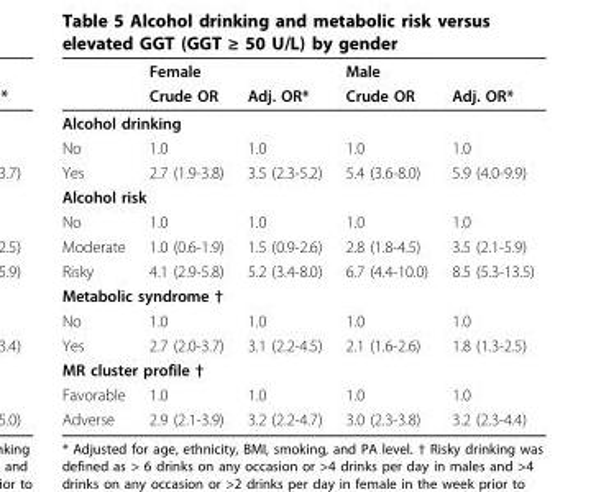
<table><thead><tr><td rowspan="2"></td><td colspan="2">Female</td><td colspan="2">Male</td></tr><tr><td>Crude OR</td><td>Adj. OR*</td><td>Crude OR</td><td>Adj. OR*</td></tr></thead><tbody><tr><td colspan="5">Alcohol drinking</td></tr><tr><td>No</td><td>1.0</td><td>1.0</td><td>1.0</td><td>1.0</td></tr><tr><td>Yes</td><td>2.7 (1.9-3.8)</td><td>3.5 (2.3-5.2)</td><td>5.4 (3.6-8.0)</td><td>5.9 (4.0-9.9)</td></tr><tr><td colspan="5">Alcohol risk</td></tr><tr><td>No</td><td>1.0</td><td>1.0</td><td>1.0</td><td>1.0</td></tr><tr><td>Moderate</td><td>1.0 (0.6-1.9)</td><td>1.5 (0.9-2.6)</td><td>2.8 (1.8-4.5)</td><td>3.5 (2.1-5.9)</td></tr><tr><td>Risky</td><td>4.1 (2.9-5.8)</td><td>5.2 (3.4-8.0)</td><td>6.7 (4.4-10.0)</td><td>8.5 (5.3-13.5)</td></tr><tr><td colspan="5">Metabolic syndrome †</td></tr><tr><td>No</td><td>1.0</td><td>1.0</td><td>1.0</td><td>1.0</td></tr><tr><td>Yes</td><td>2.7 (2.0-3.7)</td><td>3.1 (2.2-4.5)</td><td>2.1 (1.6-2.6)</td><td>1.8 (1.3-2.5)</td></tr><tr><td colspan="5">MR cluster profile †</td></tr><tr><td>Favorable</td><td>1.0</td><td>1.0</td><td>1.0</td><td>1.0</td></tr><tr><td>Adverse</td><td>2.9 (2.1-3.9)</td><td>3.2 (2.2-4.7)</td><td>3.0 (2.3-3.8)</td><td>3.2 (2.3-4.4)</td></tr></tbody></table>